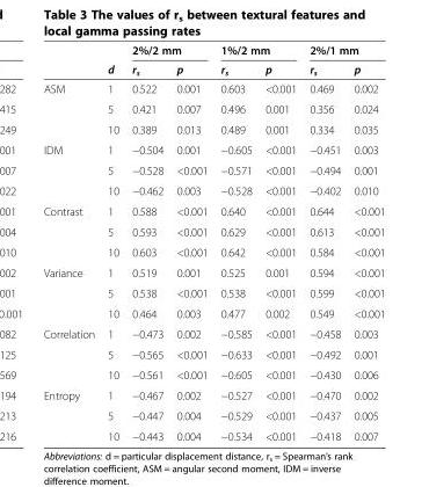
<table><thead><tr><td rowspan="2"></td><td rowspan="2">d</td><td colspan="2">2%/2 mm</td><td colspan="2">1%/2 mm</td><td colspan="2">2%/1 mm</td></tr><tr><td>r<sub>s</sub></td><td>p</td><td>r<sub>s</sub></td><td>p</td><td>r<sub>s</sub></td><td>p</td></tr></thead><tbody><tr><td rowspan="3">ASM</td><td>1</td><td>0.522</td><td>0.001</td><td>0.603</td><td>&lt;0.001</td><td>0.469</td><td>0.002</td></tr><tr><td>5</td><td>0.421</td><td>0.007</td><td>0.496</td><td>0.001</td><td>0.356</td><td>0.024</td></tr><tr><td>10</td><td>0.389</td><td>0.013</td><td>0.489</td><td>0.001</td><td>0.334</td><td>0.035</td></tr><tr><td rowspan="3">IDM</td><td>1</td><td>−0.504</td><td>0.001</td><td>−0.605</td><td>&lt;0.001</td><td>−0.451</td><td>0.003</td></tr><tr><td>5</td><td>−0.528</td><td>&lt;0.001</td><td>−0.571</td><td>&lt;0.001</td><td>−0.494</td><td>0.001</td></tr><tr><td>10</td><td>−0.462</td><td>0.003</td><td>−0.528</td><td>&lt;0.001</td><td>−0.402</td><td>0.010</td></tr><tr><td rowspan="3">Contrast</td><td>1</td><td>0.588</td><td>&lt;0.001</td><td>0.640</td><td>&lt;0.001</td><td>0.644</td><td>&lt;0.001</td></tr><tr><td>5</td><td>0.593</td><td>&lt;0.001</td><td>0.629</td><td>&lt;0.001</td><td>0.613</td><td>&lt;0.001</td></tr><tr><td>10</td><td>0.603</td><td>&lt;0.001</td><td>0.642</td><td>&lt;0.001</td><td>0.584</td><td>&lt;0.001</td></tr><tr><td rowspan="3">Variance</td><td>1</td><td>0.519</td><td>0.001</td><td>0.525</td><td>0.001</td><td>0.594</td><td>&lt;0.001</td></tr><tr><td>5</td><td>0.538</td><td>&lt;0.001</td><td>0.538</td><td>&lt;0.001</td><td>0.599</td><td>&lt;0.001</td></tr><tr><td>10</td><td>0.464</td><td>0.003</td><td>0.477</td><td>0.002</td><td>0.549</td><td>&lt;0.001</td></tr><tr><td rowspan="3">Correlation</td><td>1</td><td>−0.473</td><td>0.002</td><td>−0.585</td><td>&lt;0.001</td><td>−0.458</td><td>0.003</td></tr><tr><td>5</td><td>−0.565</td><td>&lt;0.001</td><td>−0.633</td><td>&lt;0.001</td><td>−0.492</td><td>0.001</td></tr><tr><td>10</td><td>−0.561</td><td>&lt;0.001</td><td>−0.605</td><td>&lt;0.001</td><td>−0.430</td><td>0.006</td></tr><tr><td rowspan="3">Entropy</td><td>1</td><td>−0.467</td><td>0.002</td><td>−0.527</td><td>&lt;0.001</td><td>−0.470</td><td>0.002</td></tr><tr><td>5</td><td>−0.447</td><td>0.004</td><td>−0.529</td><td>&lt;0.001</td><td>−0.437</td><td>0.005</td></tr><tr><td>10</td><td>−0.443</td><td>0.004</td><td>−0.534</td><td>&lt;0.001</td><td>−0.418</td><td>0.007</td></tr></tbody></table>